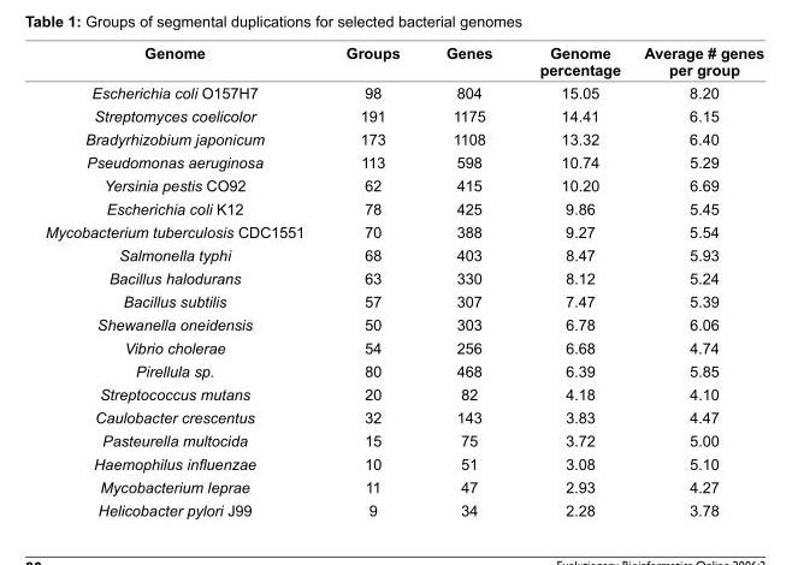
<table><thead><tr><td>Genome</td><td>Groups</td><td>Genes</td><td>Genome percentage</td><td>Average # genes per group</td></tr></thead><tbody><tr><td>Escherichia coli O157H7</td><td>98</td><td>804</td><td>15.05</td><td>8.20</td></tr><tr><td>Streptomyces coelicolor</td><td>191</td><td>1175</td><td>14.41</td><td>6.15</td></tr><tr><td>Bradyrhizobium japonicum</td><td>173</td><td>1108</td><td>13.32</td><td>6.40</td></tr><tr><td>Pseudomonas aeruginosa</td><td>113</td><td>598</td><td>10.74</td><td>5.29</td></tr><tr><td>Yersinia pestis CO92</td><td>62</td><td>415</td><td>10.20</td><td>6.69</td></tr><tr><td>Escherichia coli K12</td><td>78</td><td>425</td><td>9.86</td><td>5.45</td></tr><tr><td>Mycobacterium tuberculosis CDC1551</td><td>70</td><td>388</td><td>9.27</td><td>5.54</td></tr><tr><td>Salmonella typhi</td><td>68</td><td>403</td><td>8.47</td><td>5.93</td></tr><tr><td>Bacillus halodurans</td><td>63</td><td>330</td><td>8.12</td><td>5.24</td></tr><tr><td>Bacillus subtilis</td><td>57</td><td>307</td><td>7.47</td><td>5.39</td></tr><tr><td>Shewanella oneidensis</td><td>50</td><td>303</td><td>6.78</td><td>6.06</td></tr><tr><td>Vibrio cholerae</td><td>54</td><td>256</td><td>6.68</td><td>4.74</td></tr><tr><td>Pirellula sp.</td><td>80</td><td>468</td><td>6.39</td><td>5.85</td></tr><tr><td>Streptococcus mutans</td><td>20</td><td>82</td><td>4.18</td><td>4.10</td></tr><tr><td>Caulobacter crescentus</td><td>32</td><td>143</td><td>3.83</td><td>4.47</td></tr><tr><td>Pasteurella multocida</td><td>15</td><td>75</td><td>3.72</td><td>5.00</td></tr><tr><td>Haemophilus infl uenzae</td><td>10</td><td>51</td><td>3.08</td><td>5.10</td></tr><tr><td>Mycobacterium leprae</td><td>11</td><td>47</td><td>2.93</td><td>4.27</td></tr><tr><td>Helicobacter pylori J99</td><td>9</td><td>34</td><td>2.28</td><td>3.78</td></tr></tbody></table>